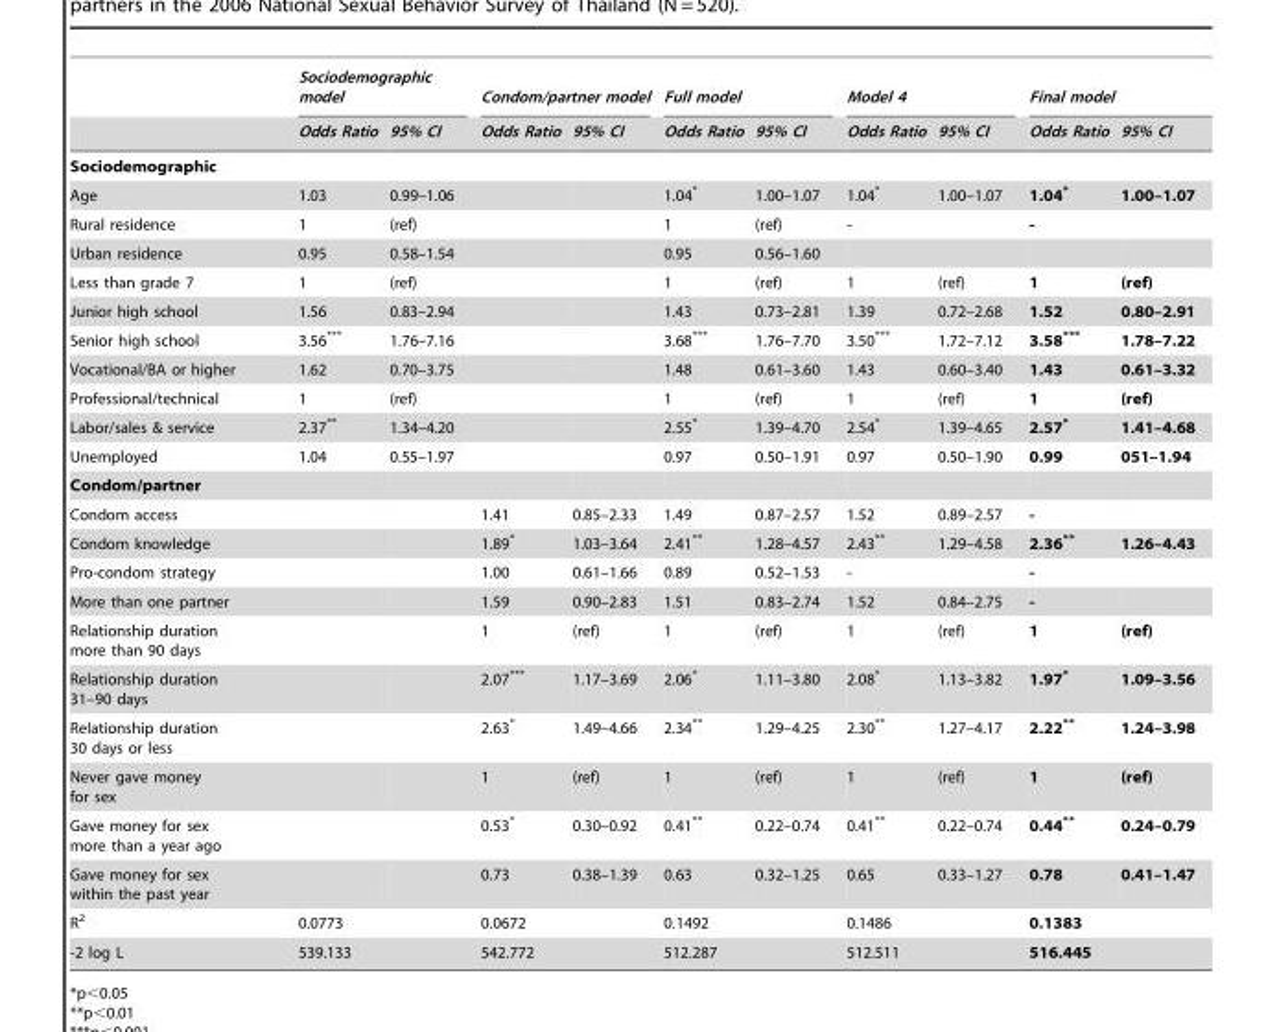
<table><thead><tr><td rowspan="2"></td><td colspan="2">Sociodemographic model</td><td colspan="2">Condom/partner model</td><td colspan="2">Full model</td><td colspan="2">Model 4</td><td colspan="2">Final model</td></tr><tr><td>Odds Ratio</td><td>95% CI</td><td>Odds Ratio</td><td>95% CI</td><td>Odds Ratio</td><td>95% CI</td><td>Odds Ratio</td><td>95% CI</td><td>Odds Ratio</td><td>95% CI</td></tr></thead><tbody><tr><td colspan="11">Sociodemographic</td></tr><tr><td>Age</td><td>1.03</td><td>0.99–1.06</td><td></td><td></td><td>1.04*</td><td>1.00–1.07</td><td>1.04*</td><td>1.00–1.07</td><td>1.04*</td><td>1.00–1.07</td></tr><tr><td>Rural residence</td><td>1</td><td>(ref)</td><td></td><td></td><td>1</td><td>(ref)</td><td>-</td><td></td><td>-</td><td></td></tr><tr><td>Urban residence</td><td>0.95</td><td>0.58–1.54</td><td></td><td></td><td>0.95</td><td>0.56–1.60</td><td></td><td></td><td></td><td></td></tr><tr><td>Less than grade 7</td><td>1</td><td>(ref)</td><td></td><td></td><td>1</td><td>(ref)</td><td>1</td><td>(ref)</td><td>1</td><td>(ref)</td></tr><tr><td>Junior high school</td><td>1.56</td><td>0.83–2.94</td><td></td><td></td><td>1.43</td><td>0.73–2.81</td><td>1.39</td><td>0.72–2.68</td><td>1.52</td><td>0.80–2.91</td></tr><tr><td>Senior high school</td><td>3.56***</td><td>1.76–7.16</td><td></td><td></td><td>3.68***</td><td>1.76–7.70</td><td>3.50***</td><td>1.72–7.12</td><td>3.58***</td><td>1.78–7.22</td></tr><tr><td>Vocational/BA or higher</td><td>1.62</td><td>0.70–3.75</td><td></td><td></td><td>1.48</td><td>0.61–3.60</td><td>1.43</td><td>0.60–3.40</td><td>1.43</td><td>0.61–3.32</td></tr><tr><td>Professional/technical</td><td>1</td><td>(ref)</td><td></td><td></td><td>1</td><td>(ref)</td><td>1</td><td>(ref)</td><td>1</td><td>(ref)</td></tr><tr><td>Labor/sales &amp; service</td><td>2.37**</td><td>1.34–4.20</td><td></td><td></td><td>2.55*</td><td>1.39–4.70</td><td>2.54*</td><td>1.39–4.65</td><td>2.57*</td><td>1.41–4.68</td></tr><tr><td>Unemployed</td><td>1.04</td><td>0.55–1.97</td><td></td><td></td><td>0.97</td><td>0.50–1.91</td><td>0.97</td><td>0.50–1.90</td><td>0.99</td><td>051–1.94</td></tr><tr><td colspan="11">Condom/partner</td></tr><tr><td>Condom access</td><td></td><td></td><td>1.41</td><td>0.85–2.33</td><td>1.49</td><td>0.87–2.57</td><td>1.52</td><td>0.89–2.57</td><td>-</td><td></td></tr><tr><td>Condom knowledge</td><td></td><td></td><td>1.89*</td><td>1.03–3.64</td><td>2.41**</td><td>1.28–4.57</td><td>2.43**</td><td>1.29–4.58</td><td>2.36**</td><td>1.26–4.43</td></tr><tr><td>Pro-condom strategy</td><td></td><td></td><td>1.00</td><td>0.61–1.66</td><td>0.89</td><td>0.52–1.53</td><td>-</td><td></td><td>-</td><td></td></tr><tr><td>More than one partner</td><td></td><td></td><td>1.59</td><td>0.90–2.83</td><td>1.51</td><td>0.83–2.74</td><td>1.52</td><td>0.84–2.75</td><td>-</td><td></td></tr><tr><td>Relationship duration more than 90 days</td><td></td><td></td><td>1</td><td>(ref)</td><td>1</td><td>(ref)</td><td>1</td><td>(ref)</td><td>1</td><td>(ref)</td></tr><tr><td>Relationship duration 31–90 days</td><td></td><td></td><td>2.07***</td><td>1.17–3.69</td><td>2.06*</td><td>1.11–3.80</td><td>2.08*</td><td>1.13–3.82</td><td>1.97*</td><td>1.09–3.56</td></tr><tr><td>Relationship duration 30 days or less</td><td></td><td></td><td>2.63*</td><td>1.49–4.66</td><td>2.34**</td><td>1.29–4.25</td><td>2.30**</td><td>1.27–4.17</td><td>2.22**</td><td>1.24–3.98</td></tr><tr><td>Never gave money for sex</td><td></td><td></td><td>1</td><td>(ref)</td><td>1</td><td>(ref)</td><td>1</td><td>(ref)</td><td>1</td><td>(ref)</td></tr><tr><td>Gave money for sex more than a year ago</td><td></td><td></td><td>0.53*</td><td>0.30–0.92</td><td>0.41**</td><td>0.22–0.74</td><td>0.41**</td><td>0.22–0.74</td><td>0.44**</td><td>0.24–0.79</td></tr><tr><td>Gave money for sex within the past year</td><td></td><td></td><td>0.73</td><td>0.38–1.39</td><td>0.63</td><td>0.32–1.25</td><td>0.65</td><td>0.33–1.27</td><td>0.78</td><td>0.41–1.47</td></tr><tr><td>R<sup>2</sup></td><td colspan="2">0.0773</td><td colspan="2">0.0672</td><td colspan="2">0.1492</td><td colspan="2">0.1486</td><td colspan="2">0.1383</td></tr><tr><td>-2 log L</td><td colspan="2">539.133</td><td colspan="2">542.772</td><td colspan="2">512.287</td><td colspan="2">512.511</td><td colspan="2">516.445</td></tr></tbody></table>